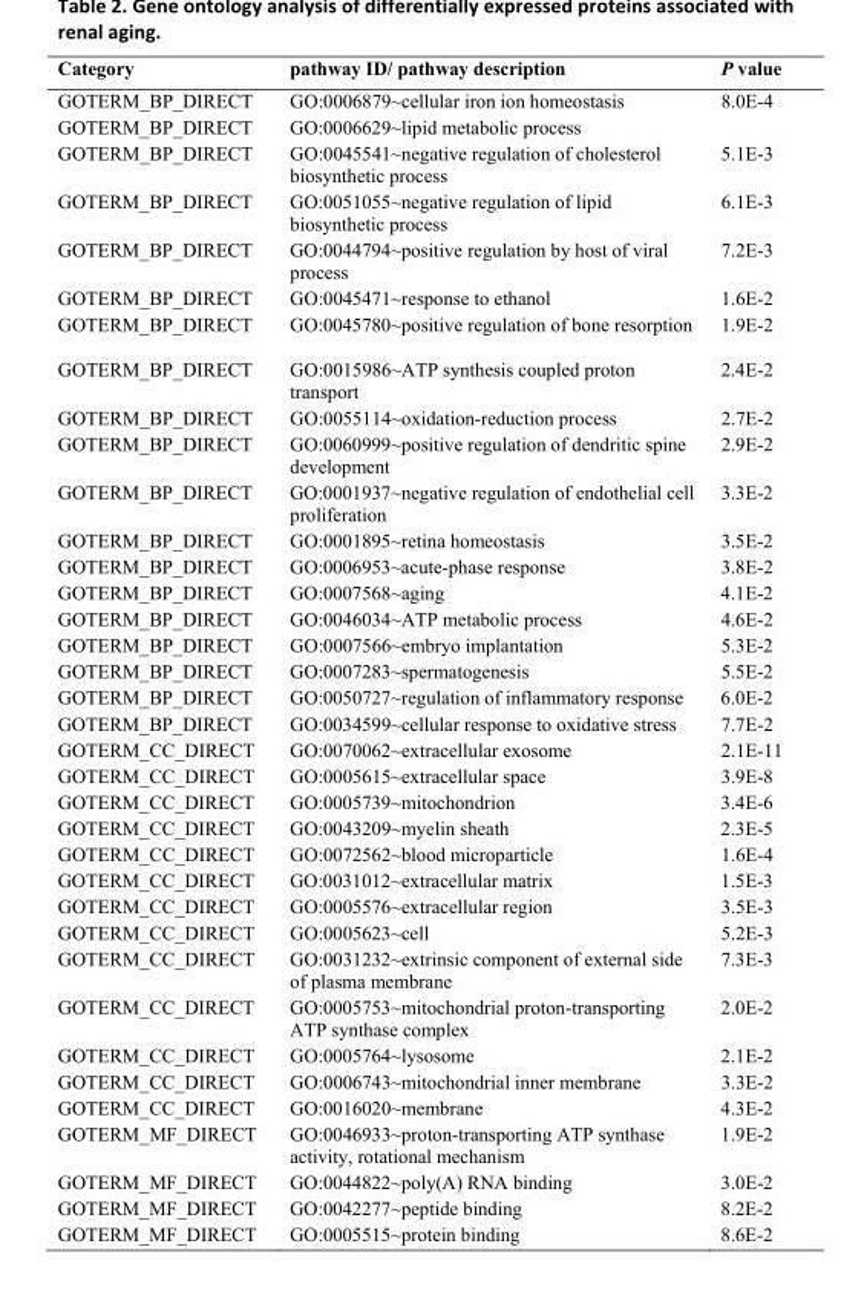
<table><tbody><tr><td>Category</td><td>pathway ID/ pathway description</td><td>P value</td></tr><tr><td>GOTERM_BP_DIRECT</td><td>GO:0006879~cellular iron ion homeostasis</td><td>8.0E-4</td></tr><tr><td>GOTERM_BP_DIRECT</td><td>GO:0006629~lipid metabolic process</td><td></td></tr><tr><td>GOTERM_BP_DIRECT</td><td>GO:0045541~negative regulation of cholesterol biosynthetic process</td><td>5.1E-3</td></tr><tr><td>GOTERM_BP_DIRECT</td><td>GO:0051055~negative regulation of lipid biosynthetic process</td><td>6.1E-3</td></tr><tr><td>GOTERM_BP_DIRECT</td><td>GO:0044794~positive regulation by host of viral process</td><td>7.2E-3</td></tr><tr><td>GOTERM_BP_DIRECT</td><td>GO:0045471~response to ethanol</td><td>1.6E-2</td></tr><tr><td>GOTERM_BP_DIRECT</td><td>GO:0045780~positive regulation of bone resorption</td><td>1.9E-2</td></tr><tr><td>GOTERM_BP_DIRECT</td><td>GO:0015986~ATP synthesis coupled proton transport</td><td>2.4E-2</td></tr><tr><td>GOTERM_BP_DIRECT</td><td>GO:0055114~oxidation-reduction process</td><td>2.7E-2</td></tr><tr><td>GOTERM_BP_DIRECT</td><td>GO:0060999~positive regulation of dendritic spine development</td><td>2.9E-2</td></tr><tr><td>GOTERM_BP_DIRECT</td><td>GO:0001937~negative regulation of endothelial cell proliferation</td><td>3.3E-2</td></tr><tr><td>GOTERM_BP_DIRECT</td><td>GO:0001895~retina homeostasis</td><td>3.5E-2</td></tr><tr><td>GOTERM_BP_DIRECT</td><td>GO:0006953~acute-phase response</td><td>3.8E-2</td></tr><tr><td>GOTERM_BP_DIRECT</td><td>GO:0007568~aging</td><td>4.1E-2</td></tr><tr><td>GOTERM_BP_DIRECT</td><td>GO:0046034~ATP metabolic process</td><td>4.6E-2</td></tr><tr><td>GOTERM_BP_DIRECT</td><td>GO:0007566~embryo implantation</td><td>5.3E-2</td></tr><tr><td>GOTERM_BP_DIRECT</td><td>GO:0007283~spermatogenesis</td><td>5.5E-2</td></tr><tr><td>GOTERM_BP_DIRECT</td><td>GO:0050727~regulation of inflammatory response</td><td>6.0E-2</td></tr><tr><td>GOTERM_BP_DIRECT</td><td>GO:0034599~cellular response to oxidative stress</td><td>7.7E-2</td></tr><tr><td>GOTERM_CC_DIRECT</td><td>GO:0070062~extracellular exosome</td><td>2.1E-11</td></tr><tr><td>GOTERM_CC_DIRECT</td><td>GO:0005615~extracellular space</td><td>3.9E-8</td></tr><tr><td>GOTERM_CC_DIRECT</td><td>GO:0005739~mitochondrion</td><td>3.4E-6</td></tr><tr><td>GOTERM_CC_DIRECT</td><td>GO:0043209~myelin sheath</td><td>2.3E-5</td></tr><tr><td>GOTERM_CC_DIRECT</td><td>GO:0072562~blood microparticle</td><td>1.6E-4</td></tr><tr><td>GOTERM_CC_DIRECT</td><td>GO:0031012~extracellular matrix</td><td>1.5E-3</td></tr><tr><td>GOTERM_CC_DIRECT</td><td>GO:0005576~extracellular region</td><td>3.5E-3</td></tr><tr><td>GOTERM_CC_DIRECT</td><td>GO:0005623~cell</td><td>5.2E-3</td></tr><tr><td>GOTERM_CC_DIRECT</td><td>GO:0031232~extrinsic component of external side of plasma membrane</td><td>7.3E-3</td></tr><tr><td>GOTERM_CC_DIRECT</td><td>GO:0005753~mitochondrial proton-transporting ATP synthase complex</td><td>2.0E-2</td></tr><tr><td>GOTERM_CC_DIRECT</td><td>GO:0005764~lysosome</td><td>2.1E-2</td></tr><tr><td>GOTERM_CC_DIRECT</td><td>GO:0006743~mitochondrial inner membrane</td><td>3.3E-2</td></tr><tr><td>GOTERM_CC_DIRECT</td><td>GO:0016020~membrane</td><td>4.3E-2</td></tr><tr><td>GOTERM_MF_DIRECT</td><td>GO:0046933~proton-transporting ATP synthase activity, rotational mechanism</td><td>1.9E-2</td></tr><tr><td>GOTERM_MF_DIRECT</td><td>GO:0044822~poly(A) RNA binding</td><td>3.0E-2</td></tr><tr><td>GOTERM_MF_DIRECT</td><td>GO:0042277~peptide binding</td><td>8.2E-2</td></tr><tr><td>GOTERM_MF_DIRECT</td><td>GO:0005515~protein binding</td><td>8.6E-2</td></tr></tbody></table>